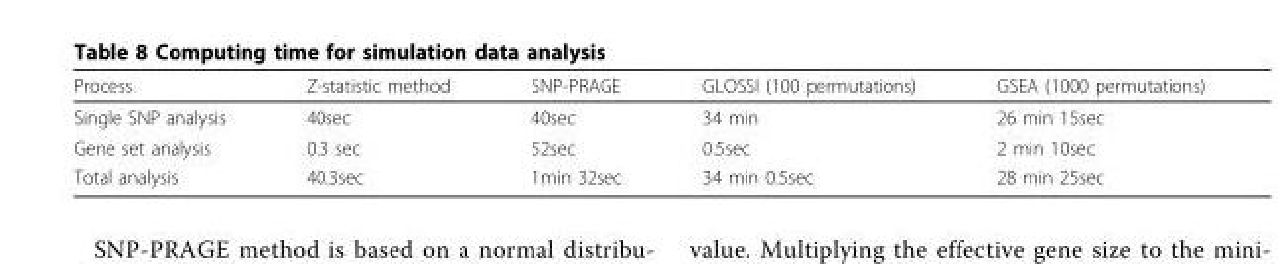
<table><thead><tr><td>Process</td><td>Z-statistic method</td><td>SNP-PRAGE</td><td>GLOSSI (100 permutations)</td><td>GSEA (1000 permutations)</td></tr></thead><tbody><tr><td>Single SNP analysis</td><td>40sec</td><td>40sec</td><td>34 min</td><td>26 min 15sec</td></tr><tr><td>Gene set analysis</td><td>0.3 sec</td><td>52sec</td><td>0.5sec</td><td>2 min 10sec</td></tr><tr><td>Total analysis</td><td>40.3sec</td><td>1min 32sec</td><td>34 min 0.5sec</td><td>28 min 25sec</td></tr></tbody></table>